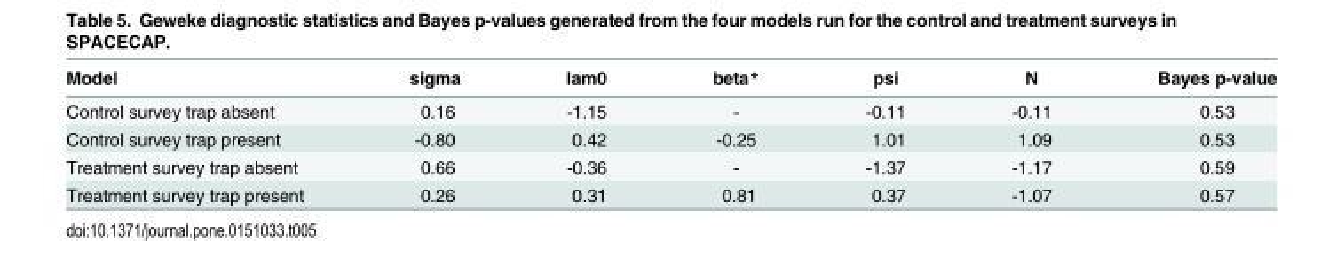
<table><thead><tr><td>Model</td><td>sigma</td><td>lam0</td><td>beta*</td><td>psi</td><td>N</td><td>Bayes p-value</td></tr></thead><tbody><tr><td>Control survey trap absent</td><td>0.16</td><td>-1.15</td><td>-</td><td>-0.11</td><td>-0.11</td><td>0.53</td></tr><tr><td>Control survey trap present</td><td>-0.80</td><td>0.42</td><td>-0.25</td><td>1.01</td><td>1.09</td><td>0.53</td></tr><tr><td>Treatment survey trap absent</td><td>0.66</td><td>-0.36</td><td>-</td><td>-1.37</td><td>-1.17</td><td>0.59</td></tr><tr><td>Treatment survey trap present</td><td>0.26</td><td>0.31</td><td>0.81</td><td>0.37</td><td>-1.07</td><td>0.57</td></tr></tbody></table>